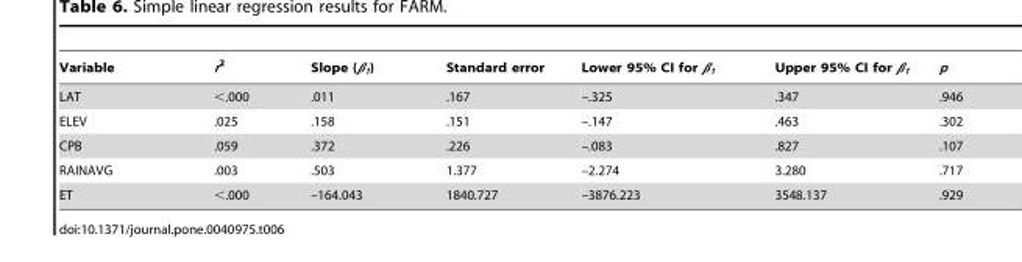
<table><thead><tr><td>Variable</td><td>r<sup>2</sup></td><td>Slope (β<sub>1</sub>)</td><td>Standard error</td><td>Lower 95% CI for β<sub>1</sub></td><td>Upper 95% CI for β<sub>1</sub></td><td>p</td></tr></thead><tbody><tr><td>LAT</td><td>&lt;.000</td><td>.011</td><td>.167</td><td>–.325</td><td>.347</td><td>.946</td></tr><tr><td>ELEV</td><td>.025</td><td>.158</td><td>.151</td><td>–.147</td><td>.463</td><td>.302</td></tr><tr><td>CPB</td><td>.059</td><td>.372</td><td>.226</td><td>–.083</td><td>.827</td><td>.107</td></tr><tr><td>RAINAVG</td><td>.003</td><td>.503</td><td>1.377</td><td>–2.274</td><td>3.280</td><td>.717</td></tr><tr><td>ET</td><td>&lt;.000</td><td>–164.043</td><td>1840.727</td><td>–3876.223</td><td>3548.137</td><td>.929</td></tr></tbody></table>